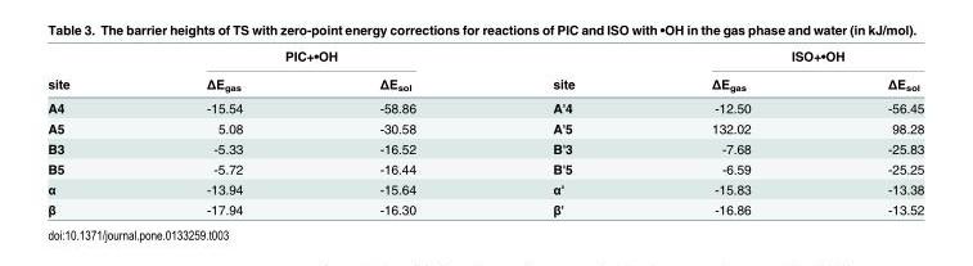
<table><thead><tr><td rowspan="2">site</td><td colspan="2">PIC+•OH</td><td rowspan="2">site</td><td colspan="2">ISO+•OH</td></tr><tr><td>ΔE<sub>gas</sub></td><td>ΔE<sub>sol</sub></td><td>ΔE<sub>gas</sub></td><td>ΔE<sub>sol</sub></td></tr></thead><tbody><tr><td>A4</td><td>-15.54</td><td>-58.86</td><td>A&#x27;4</td><td>-12.50</td><td>-56.45</td></tr><tr><td>A5</td><td>5.08</td><td>-30.58</td><td>A&#x27;5</td><td>132.02</td><td>98.28</td></tr><tr><td>B3</td><td>-5.33</td><td>-16.52</td><td>B&#x27;3</td><td>-7.68</td><td>-25.83</td></tr><tr><td>B5</td><td>-5.72</td><td>-16.44</td><td>B&#x27;5</td><td>-6.59</td><td>-25.25</td></tr><tr><td>α</td><td>-13.94</td><td>-15.64</td><td>α&#x27;</td><td>-15.83</td><td>-13.38</td></tr><tr><td>β</td><td>-17.94</td><td>-16.30</td><td>β&#x27;</td><td>-16.86</td><td>-13.52</td></tr></tbody></table>